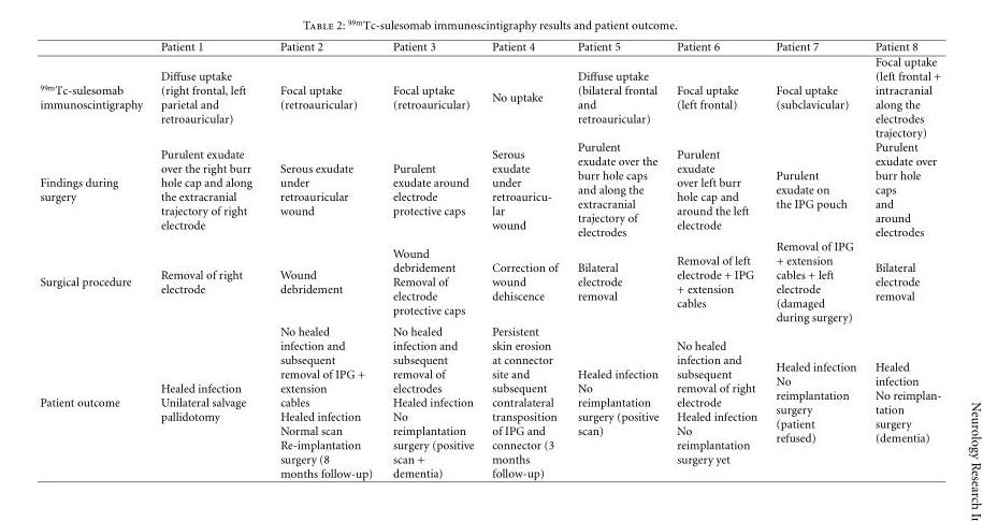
<table><thead><tr><td></td><td>Patient 1</td><td>Patient 2</td><td>Patient 3</td><td>Patient 4</td><td>Patient 5</td><td>Patient 6</td><td>Patient 7</td><td>Patient 8</td></tr></thead><tbody><tr><td><sup>99m</sup>Tc-sulesomab immunoscintigraphy</td><td>Diffuse uptake (right frontal, left parietal and retroauricular)</td><td>Focal uptake (retroauricular)</td><td>Focal uptake (retroauricular)</td><td>No uptake</td><td>Diffuse uptake (bilateral frontal and retroauricular)</td><td>Focal uptake (left frontal)</td><td>Focal uptake (subclavicular)</td><td>Focal uptake (left frontal + intracranial along the electrodes trajectory)</td></tr><tr><td>Findings during surgery</td><td>Purulent exudate over the right burr hole cap and along the extracranial trajectory of right electrode</td><td>Serous exudate under retroauricular wound</td><td>Purulent exudate around electrode protective caps</td><td>Serous exudate under retroauricu- lar wound</td><td>Purulent exudate over the burr hole caps and along the extracranial trajectory of electrodes</td><td>Purulent exudate over left burr hole cap and around the left electrode</td><td>Purulent exudate on the IPG pouch</td><td>Purulent exudate over burr hole caps and around electrodes</td></tr><tr><td>Surgical procedure</td><td>Removal of right electrode</td><td>Wound debridement</td><td>Wound debridement Removal of electrode protective caps</td><td>Correction of wound dehiscence</td><td>Bilateral electrode removal</td><td>Removal of left electrode + IPG + extension cables</td><td>Removal of IPG + extension cables + left electrode (damaged during surgery)</td><td>Bilateral electrode removal</td></tr><tr><td>Patient outcome</td><td>Healed infection Unilateral salvage pallidotomy</td><td>No healed infection and subsequent removal of IPG + extension cables Healed infection Normal scan Re-implantation surgery (8 months follow-up)</td><td>No healed infection and subsequent removal of electrodes Healed infection No reimplantation surgery (positive scan + dementia)</td><td>Persistent skin erosion at connector site and subsequent contralateral transposition of IPG and connector (3 months follow-up)</td><td>Healed infection No reimplantation surgery (positive scan)</td><td>No healed infection and subsequent removal of right electrode Healed infection No reimplantation surgery yet</td><td>Healed infection No reimplantation surgery (patient refused)</td><td>Healed infection No reimplan- tation surgery (dementia)</td></tr></tbody></table>